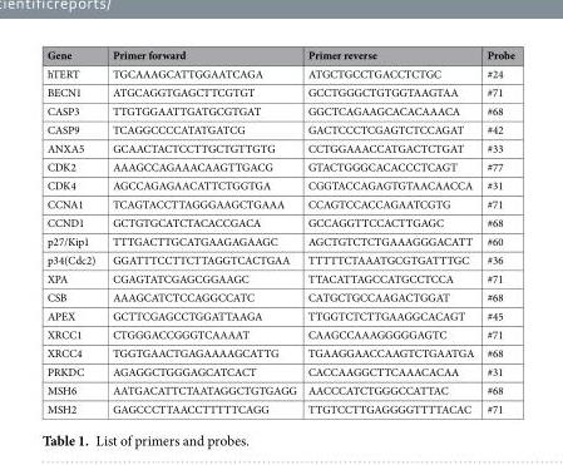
<table><thead><tr><td>Gene</td><td>Primer forward</td><td>Primer reverse</td><td>Probe</td></tr></thead><tbody><tr><td>hTERT</td><td>TGCAAAGCATTGGAATCAGA</td><td>ATGCTGCCTGACCTCTGC</td><td>#24</td></tr><tr><td>BECN1</td><td>ATGCAGGTGAGCTTCGTGT</td><td>GCCTGGGCTGTGGTAAGTAA</td><td>#71</td></tr><tr><td>CASP3</td><td>TTGTGGAATTGATGCGTGAT</td><td>GGCTCAGAAGCACACAAACA</td><td>#68</td></tr><tr><td>CASP9</td><td>TCAGGCCCCATATGATCG</td><td>GACTCCCTCGAGTCTCCAGAT</td><td>#42</td></tr><tr><td>ANXA5</td><td>GCAACTACTCCTTGCTGTTGTG</td><td>CCTGGAAACCATGACTCTGAT</td><td>#33</td></tr><tr><td>CDK2</td><td>AAAGCCAGAAACAAGTTGACG</td><td>GTACTGGGCACACCCTCAGT</td><td>#77</td></tr><tr><td>CDK4</td><td>AGCCAGAGAACATTCTGGTGA</td><td>CGGTACCAGAGTGTAACAACCA</td><td>#31</td></tr><tr><td>CCNA1</td><td>TCAGTACCTTAGGGAAGCTGAAA</td><td>CCAGTCCACCAGAATCGTG</td><td>#71</td></tr><tr><td>CCND1</td><td>GCTGTGCATCTACACCGACA</td><td>GCCAGGTTCCACTTGAGC</td><td>#68</td></tr><tr><td>p27/Kip1</td><td>TTTGACTTGCATGAAGAGAAGC</td><td>AGCTGTCTCTGAAAGGGACATT</td><td>#60</td></tr><tr><td>p34(Cdc2)</td><td>GGATTTCCTTCTTAGGTCACTGAA</td><td>TTTTTCTAAATGCGTGATTTGC</td><td>#36</td></tr><tr><td>XPA</td><td>CGAGTATCGAGCGGAAGC</td><td>TTACATTAGCCATGCCTCCA</td><td>#71</td></tr><tr><td>CSB</td><td>AAAGCATCTCCAGGCCATC</td><td>CATGCTGCCAAGACTGGAT</td><td>#68</td></tr><tr><td>APEX</td><td>GCTTCGAGCCTGGATTAAGA</td><td>TTGGTCTCTTGAAGGCACAGT</td><td>#45</td></tr><tr><td>XRCC1</td><td>CTGGGACCGGGTCAAAAT</td><td>CAAGCCAAAGGGGGAGTC</td><td>#71</td></tr><tr><td>XRCC4</td><td>TGGTGAACTGAGAAAAGCATTG</td><td>TGAAGGAACCAAGTCTGAATGA</td><td>#68</td></tr><tr><td>PRKDC</td><td>AGAGGCTGGGAGCATCACT</td><td>CACCAAGGCTTCAAACACAA</td><td>#31</td></tr><tr><td>MSH6</td><td>AATGACATTCTAATAGGCTGTGAGG</td><td>AACCCATCTGGGCCATTAC</td><td>#68</td></tr><tr><td>MSH2</td><td>GAGCCCTTAACCTTTTTCAGG</td><td>TTGTCCTTGAGGGGTTTTACAC</td><td>#71</td></tr></tbody></table>